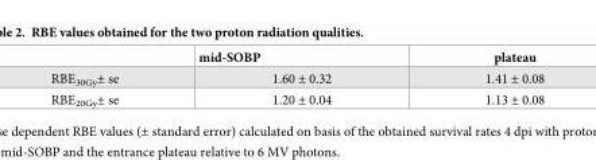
<table><thead><tr><td></td><td>mid-SOBP</td><td>plateau</td></tr></thead><tbody><tr><td>RBE<sub>30Gy</sub>± se</td><td>1.60 ± 0.32</td><td>1.41 ± 0.08</td></tr><tr><td>RBE<sub>20Gy</sub>± se</td><td>1.20 ± 0.04</td><td>1.13 ± 0.08</td></tr></tbody></table>